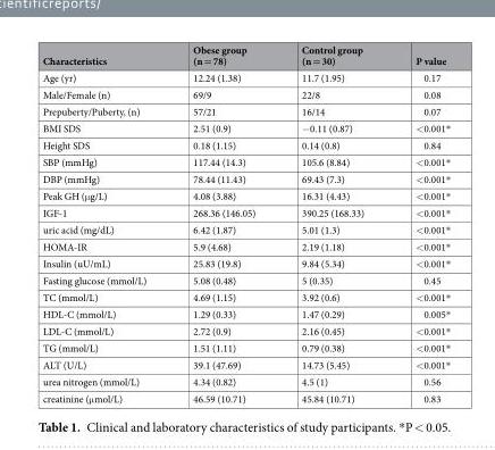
<table><thead><tr><td>Characteristics</td><td>Obese group (n = 78)</td><td>Control group (n = 30)</td><td>P value</td></tr></thead><tbody><tr><td>Age (yr)</td><td>12.24 (1.38)</td><td>11.7 (1.95)</td><td>0.17</td></tr><tr><td>Male/Female (n)</td><td>69/9</td><td>22/8</td><td>0.08</td></tr><tr><td>Prepuberty/Puberty, (n)</td><td>57/21</td><td>16/14</td><td>0.07</td></tr><tr><td>BMI SDS</td><td>2.51 (0.9)</td><td>−0.11 (0.87)</td><td>&lt;0.001*</td></tr><tr><td>Height SDS</td><td>0.18 (1.15)</td><td>0.14 (0.8)</td><td>0.84</td></tr><tr><td>SBP (mmHg)</td><td>117.44 (14.3)</td><td>105.6 (8.84)</td><td>&lt;0.001*</td></tr><tr><td>DBP (mmHg)</td><td>78.44 (11.43)</td><td>69.43 (7.3)</td><td>&lt;0.001*</td></tr><tr><td>Peak GH (μg/L)</td><td>4.08 (3.88)</td><td>16.31 (4.43)</td><td>&lt;0.001*</td></tr><tr><td>IGF-1</td><td>268.36 (146.05)</td><td>390.25 (168.33)</td><td>&lt;0.001*</td></tr><tr><td>uric acid (mg/dL)</td><td>6.42 (1.87)</td><td>5.01 (1.3)</td><td>&lt;0.001*</td></tr><tr><td>HOMA-IR</td><td>5.9 (4.68)</td><td>2.19 (1.18)</td><td>&lt;0.001*</td></tr><tr><td>Insulin (uU/mL)</td><td>25.83 (19.8)</td><td>9.84 (5.34)</td><td>&lt;0.001*</td></tr><tr><td>Fasting glucose (mmol/L)</td><td>5.08 (0.48)</td><td>5 (0.35)</td><td>0.45</td></tr><tr><td>TC (mmol/L)</td><td>4.69 (1.15)</td><td>3.92 (0.6)</td><td>&lt;0.001*</td></tr><tr><td>HDL-C (mmol/L)</td><td>1.29 (0.33)</td><td>1.47 (0.29)</td><td>0.005*</td></tr><tr><td>LDL-C (mmol/L)</td><td>2.72 (0.9)</td><td>2.16 (0.45)</td><td>&lt;0.001*</td></tr><tr><td>TG (mmol/L)</td><td>1.51 (1.11)</td><td>0.79 (0.38)</td><td>&lt;0.001*</td></tr><tr><td>ALT (U/L)</td><td>39.1 (47.69)</td><td>14.73 (5.45)</td><td>&lt;0.001*</td></tr><tr><td>urea nitrogen (mmol/L)</td><td>4.34 (0.82)</td><td>4.5 (1)</td><td>0.56</td></tr><tr><td>creatinine (μmol/L)</td><td>46.59 (10.71)</td><td>45.84 (10.71)</td><td>0.83</td></tr></tbody></table>